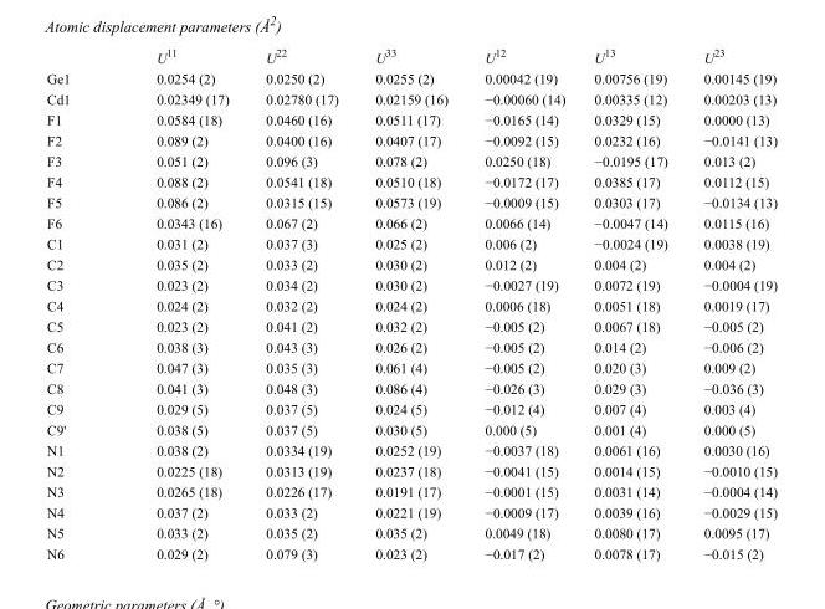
<table><thead><tr><td></td><td>U<sup>11</sup></td><td>U<sup>22</sup></td><td>U<sup>33</sup></td><td>U<sup>12</sup></td><td>U<sup>13</sup></td><td>U<sup>23</sup></td></tr></thead><tbody><tr><td>Ge1</td><td>0.0254 (2)</td><td>0.0250 (2)</td><td>0.0255 (2)</td><td>0.00042 (19)</td><td>0.00756 (19)</td><td>0.00145 (19)</td></tr><tr><td>Cd1</td><td>0.02349 (17)</td><td>0.02780 (17)</td><td>0.02159 (16)</td><td>−0.00060 (14)</td><td>0.00335 (12)</td><td>0.00203 (13)</td></tr><tr><td>F1</td><td>0.0584 (18)</td><td>0.0460 (16)</td><td>0.0511 (17)</td><td>−0.0165 (14)</td><td>0.0329 (15)</td><td>0.0000 (13)</td></tr><tr><td>F2</td><td>0.089 (2)</td><td>0.0400 (16)</td><td>0.0407 (17)</td><td>−0.0092 (15)</td><td>0.0232 (16)</td><td>−0.0141 (13)</td></tr><tr><td>F3</td><td>0.051 (2)</td><td>0.096 (3)</td><td>0.078 (2)</td><td>0.0250 (18)</td><td>−0.0195 (17)</td><td>0.013 (2)</td></tr><tr><td>F4</td><td>0.088 (2)</td><td>0.0541 (18)</td><td>0.0510 (18)</td><td>−0.0172 (17)</td><td>0.0385 (17)</td><td>0.0112 (15)</td></tr><tr><td>F5</td><td>0.086 (2)</td><td>0.0315 (15)</td><td>0.0573 (19)</td><td>−0.0009 (15)</td><td>0.0303 (17)</td><td>−0.0134 (13)</td></tr><tr><td>F6</td><td>0.0343 (16)</td><td>0.067 (2)</td><td>0.066 (2)</td><td>0.0066 (14)</td><td>−0.0047 (14)</td><td>0.0115 (16)</td></tr><tr><td>C1</td><td>0.031 (2)</td><td>0.037 (3)</td><td>0.025 (2)</td><td>0.006 (2)</td><td>−0.0024 (19)</td><td>0.0038 (19)</td></tr><tr><td>C2</td><td>0.035 (2)</td><td>0.033 (2)</td><td>0.030 (2)</td><td>0.012 (2)</td><td>0.004 (2)</td><td>0.004 (2)</td></tr><tr><td>C3</td><td>0.023 (2)</td><td>0.034 (2)</td><td>0.030 (2)</td><td>−0.0027 (19)</td><td>0.0072 (19)</td><td>−0.0004 (19)</td></tr><tr><td>C4</td><td>0.024 (2)</td><td>0.032 (2)</td><td>0.024 (2)</td><td>0.0006 (18)</td><td>0.0051 (18)</td><td>0.0019 (17)</td></tr><tr><td>C5</td><td>0.023 (2)</td><td>0.041 (2)</td><td>0.032 (2)</td><td>−0.005 (2)</td><td>0.0067 (18)</td><td>−0.005 (2)</td></tr><tr><td>C6</td><td>0.038 (3)</td><td>0.043 (3)</td><td>0.026 (2)</td><td>−0.005 (2)</td><td>0.014 (2)</td><td>−0.006 (2)</td></tr><tr><td>C7</td><td>0.047 (3)</td><td>0.035 (3)</td><td>0.061 (4)</td><td>−0.005 (2)</td><td>0.020 (3)</td><td>0.009 (2)</td></tr><tr><td>C8</td><td>0.041 (3)</td><td>0.048 (3)</td><td>0.086 (4)</td><td>−0.026 (3)</td><td>0.029 (3)</td><td>−0.036 (3)</td></tr><tr><td>C9</td><td>0.029 (5)</td><td>0.037 (5)</td><td>0.024 (5)</td><td>−0.012 (4)</td><td>0.007 (4)</td><td>0.003 (4)</td></tr><tr><td>C9&#x27;</td><td>0.038 (5)</td><td>0.037 (5)</td><td>0.030 (5)</td><td>0.000 (5)</td><td>0.001 (4)</td><td>0.000 (5)</td></tr><tr><td>N1</td><td>0.038 (2)</td><td>0.0334 (19)</td><td>0.0252 (19)</td><td>−0.0037 (18)</td><td>0.0061 (16)</td><td>0.0030 (16)</td></tr><tr><td>N2</td><td>0.0225 (18)</td><td>0.0313 (19)</td><td>0.0237 (18)</td><td>−0.0041 (15)</td><td>0.0014 (15)</td><td>−0.0010 (15)</td></tr><tr><td>N3</td><td>0.0265 (18)</td><td>0.0226 (17)</td><td>0.0191 (17)</td><td>−0.0001 (15)</td><td>0.0031 (14)</td><td>−0.0004 (14)</td></tr><tr><td>N4</td><td>0.037 (2)</td><td>0.033 (2)</td><td>0.0221 (19)</td><td>−0.0009 (17)</td><td>0.0039 (16)</td><td>−0.0029 (15)</td></tr><tr><td>N5</td><td>0.033 (2)</td><td>0.035 (2)</td><td>0.035 (2)</td><td>0.0049 (18)</td><td>0.0080 (17)</td><td>0.0095 (17)</td></tr><tr><td>N6</td><td>0.029 (2)</td><td>0.079 (3)</td><td>0.023 (2)</td><td>−0.017 (2)</td><td>0.0078 (17)</td><td>−0.015 (2)</td></tr></tbody></table>